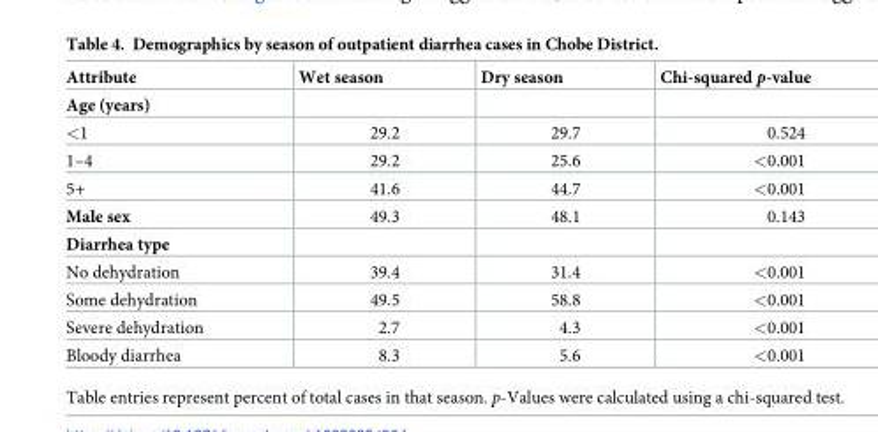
<table><thead><tr><td>Attribute</td><td>Wet season</td><td>Dry season</td><td>Chi-squared p-value</td></tr></thead><tbody><tr><td colspan="4">Age (years)</td></tr><tr><td>&lt;1</td><td>29.2</td><td>29.7</td><td>0.524</td></tr><tr><td>1–4</td><td>29.2</td><td>25.6</td><td>&lt;0.001</td></tr><tr><td>5+</td><td>41.6</td><td>44.7</td><td>&lt;0.001</td></tr><tr><td>Male sex</td><td>49.3</td><td>48.1</td><td>0.143</td></tr><tr><td colspan="4">Diarrhea type</td></tr><tr><td>No dehydration</td><td>39.4</td><td>31.4</td><td>&lt;0.001</td></tr><tr><td>Some dehydration</td><td>49.5</td><td>58.8</td><td>&lt;0.001</td></tr><tr><td>Severe dehydration</td><td>2.7</td><td>4.3</td><td>&lt;0.001</td></tr><tr><td>Bloody diarrhea</td><td>8.3</td><td>5.6</td><td>&lt;0.001</td></tr></tbody></table>